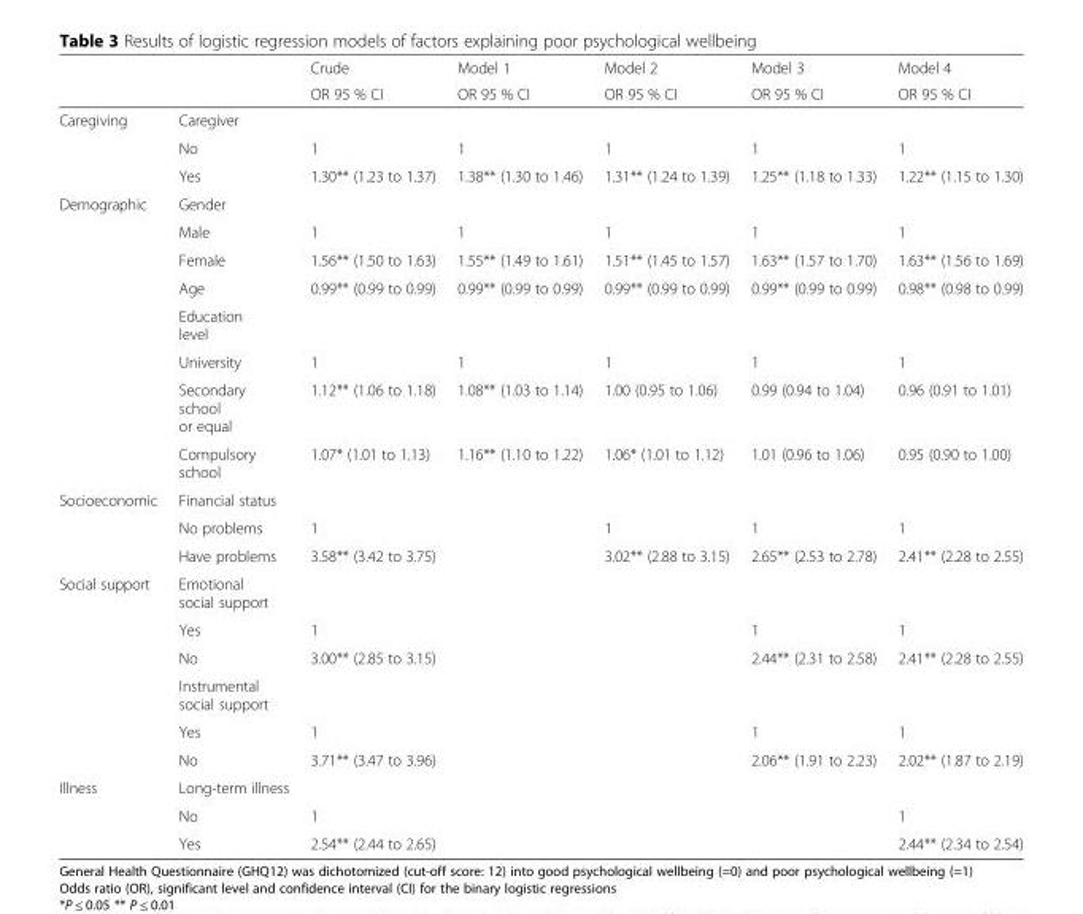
<table><thead><tr><td rowspan="2"></td><td rowspan="2"></td><td rowspan="2">Crude OR 95 % CI</td><td rowspan="2">Model 1 OR 95 % CI</td><td rowspan="2">Model 2 OR 95 % CI</td><td rowspan="2">Model 3 OR 95 % CI</td><td rowspan="2">Model 4 OR 95 % CI</td></tr><tr></tr></thead><tbody><tr><td rowspan="3">Caregiving</td><td>Caregiver</td><td></td><td></td><td></td><td></td><td></td></tr><tr><td>No</td><td>1</td><td>1</td><td>1</td><td>1</td><td>1</td></tr><tr><td>Yes</td><td>1.30** (1.23 to 1.37)</td><td>1.38** (1.30 to 1.46)</td><td>1.31** (1.24 to 1.39)</td><td>1.25** (1.18 to 1.33)</td><td>1.22** (1.15 to 1.30)</td></tr><tr><td rowspan="8">Demographic</td><td>Gender</td><td></td><td></td><td></td><td></td><td></td></tr><tr><td>Male</td><td>1</td><td>1</td><td>1</td><td>1</td><td>1</td></tr><tr><td>Female</td><td>1.56** (1.50 to 1.63)</td><td>1.55** (1.49 to 1.61)</td><td>1.51** (1.45 to 1.57)</td><td>1.63** (1.57 to 1.70)</td><td>1.63** (1.56 to 1.69)</td></tr><tr><td>Age</td><td>0.99** (0.99 to 0.99)</td><td>0.99** (0.99 to 0.99)</td><td>0.99** (0.99 to 0.99)</td><td>0.99** (0.99 to 0.99)</td><td>0.98** (0.98 to 0.99)</td></tr><tr><td>Education level</td><td></td><td></td><td></td><td></td><td></td></tr><tr><td>University</td><td>1</td><td>1</td><td>1</td><td>1</td><td>1</td></tr><tr><td>Secondary school or equal</td><td>1.12** (1.06 to 1.18)</td><td>1.08** (1.03 to 1.14)</td><td>1.00 (0.95 to 1.06)</td><td>0.99 (0.94 to 1.04)</td><td>0.96 (0.91 to 1.01)</td></tr><tr><td>Compulsory school</td><td>1.07* (1.01 to 1.13)</td><td>1.16** (1.10 to 1.22)</td><td>1.06* (1.01 to 1.12)</td><td>1.01 (0.96 to 1.06)</td><td>0.95 (0.90 to 1.00)</td></tr><tr><td rowspan="3">Socioeconomic</td><td>Financial status</td><td></td><td></td><td></td><td></td><td></td></tr><tr><td>No problems</td><td>1</td><td></td><td>1</td><td>1</td><td>1</td></tr><tr><td>Have problems</td><td>3.58** (3.42 to 3.75)</td><td></td><td>3.02** (2.88 to 3.15)</td><td>2.65** (2.53 to 2.78)</td><td>2.41** (2.28 to 2.55)</td></tr><tr><td rowspan="6">Social support</td><td>Emotional social support</td><td></td><td></td><td></td><td></td><td></td></tr><tr><td>Yes</td><td>1</td><td></td><td></td><td>1</td><td>1</td></tr><tr><td>No</td><td>3.00** (2.85 to 3.15)</td><td></td><td></td><td>2.44** (2.31 to 2.58)</td><td>2.41** (2.28 to 2.55)</td></tr><tr><td>Instrumental social support</td><td></td><td></td><td></td><td></td><td></td></tr><tr><td>Yes</td><td>1</td><td></td><td></td><td>1</td><td>1</td></tr><tr><td>No</td><td>3.71** (3.47 to 3.96)</td><td></td><td></td><td>2.06** (1.91 to 2.23)</td><td>2.02** (1.87 to 2.19)</td></tr><tr><td rowspan="3">Illness</td><td>Long-term illness</td><td></td><td></td><td></td><td></td><td></td></tr><tr><td>No</td><td>1</td><td></td><td></td><td></td><td>1</td></tr><tr><td>Yes</td><td>2.54** (2.44 to 2.65)</td><td></td><td></td><td></td><td>2.44** (2.34 to 2.54)</td></tr></tbody></table>